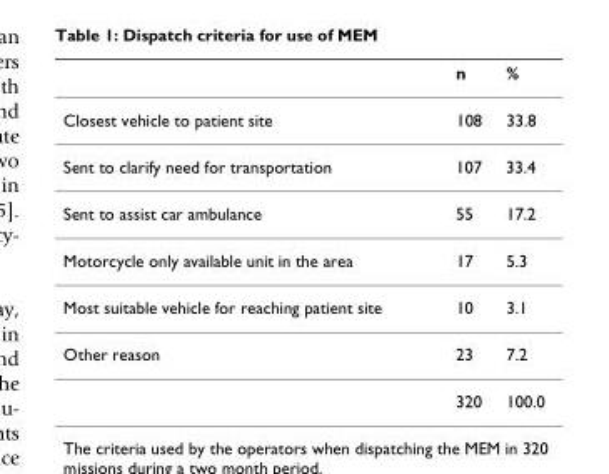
<table><thead><tr><td></td><td>n</td><td>%</td></tr></thead><tbody><tr><td>Closest vehicle to patient site</td><td>108</td><td>33.8</td></tr><tr><td>Sent to clarify need for transportation</td><td>107</td><td>33.4</td></tr><tr><td>Sent to assist car ambulance</td><td>55</td><td>17.2</td></tr><tr><td>Motorcycle only available unit in the area</td><td>17</td><td>5.3</td></tr><tr><td>Most suitable vehicle for reaching patient site</td><td>10</td><td>3.1</td></tr><tr><td rowspan="2">Other reason</td><td>23</td><td>7.2</td></tr><tr><td>320</td><td>100.0</td></tr></tbody></table>